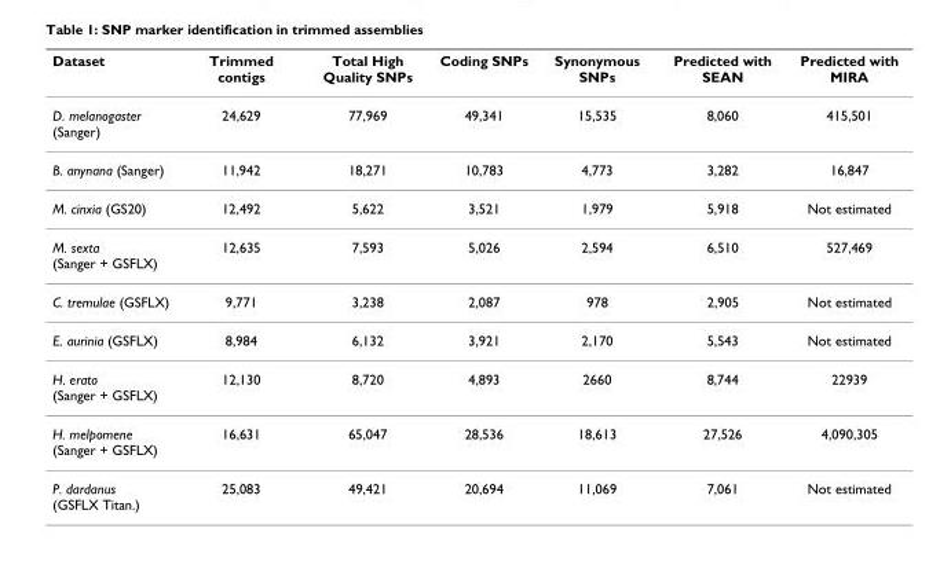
<table><thead><tr><td>Dataset</td><td>Trimmed contigs</td><td>Total High Quality SNPs</td><td>Coding SNPs</td><td>Synonymous SNPs</td><td>Predicted with SEAN</td><td>Predicted with MIRA</td></tr></thead><tbody><tr><td>D. melanogaster (Sanger)</td><td>24,629</td><td>77,969</td><td>49,341</td><td>15,535</td><td>8,060</td><td>415,501</td></tr><tr><td>B. anynana (Sanger)</td><td>11,942</td><td>18,271</td><td>10,783</td><td>4,773</td><td>3,282</td><td>16,847</td></tr><tr><td>M. cinxia (GS20)</td><td>12,492</td><td>5,622</td><td>3,521</td><td>1,979</td><td>5,918</td><td>Not estimated</td></tr><tr><td>M. sexta (Sanger + GSFLX)</td><td>12,635</td><td>7,593</td><td>5,026</td><td>2,594</td><td>6,510</td><td>527,469</td></tr><tr><td>C. tremulae (GSFLX)</td><td>9,771</td><td>3,238</td><td>2,087</td><td>978</td><td>2,905</td><td>Not estimated</td></tr><tr><td>E. aurinia (GSFLX)</td><td>8,984</td><td>6,132</td><td>3,921</td><td>2,170</td><td>5,543</td><td>Not estimated</td></tr><tr><td>H. erato (Sanger + GSFLX)</td><td>12,130</td><td>8,720</td><td>4,893</td><td>2660</td><td>8,744</td><td>22939</td></tr><tr><td>H. melpomene (Sanger + GSFLX)</td><td>16,631</td><td>65,047</td><td>28,536</td><td>18,613</td><td>27,526</td><td>4,090,305</td></tr><tr><td>P. dardanus (GSFLX Titan.)</td><td>25,083</td><td>49,421</td><td>20,694</td><td>11,069</td><td>7,061</td><td>Not estimated</td></tr></tbody></table>